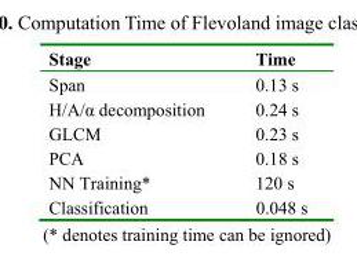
<table><thead><tr><td>Stage</td><td>Time</td></tr></thead><tbody><tr><td>Span</td><td>0.13 s</td></tr><tr><td>H/A/α decomposition</td><td>0.24 s</td></tr><tr><td>GLCM</td><td>0.23 s</td></tr><tr><td>PCA</td><td>0.18 s</td></tr><tr><td>NN Training*</td><td>120 s</td></tr><tr><td>Classification</td><td>0.048 s</td></tr></tbody></table>